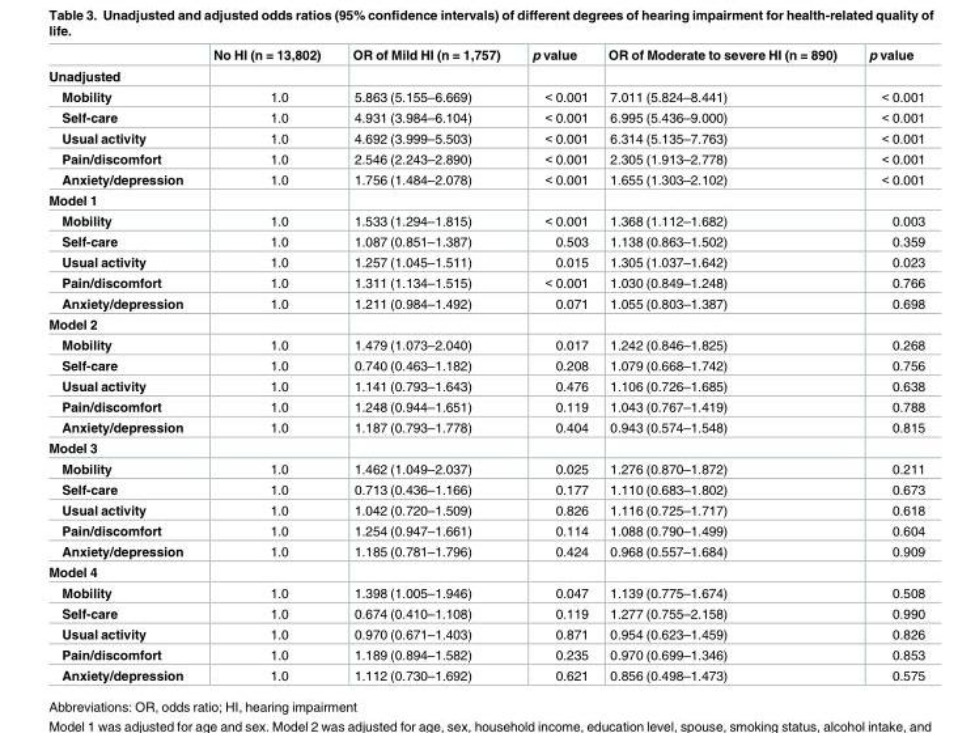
<table><thead><tr><td></td><td>No HI (n = 13,802)</td><td>OR of Mild HI (n = 1,757)</td><td>p value</td><td>OR of Moderate to severe HI (n = 890)</td><td>p value</td></tr></thead><tbody><tr><td colspan="6">Unadjusted</td></tr><tr><td>Mobility</td><td>1.0</td><td>5.863 (5.155–6.669)</td><td>&lt; 0.001</td><td>7.011 (5.824–8.441)</td><td>&lt; 0.001</td></tr><tr><td>Self-care</td><td>1.0</td><td>4.931 (3.984–6.104)</td><td>&lt; 0.001</td><td>6.995 (5.436–9.000)</td><td>&lt; 0.001</td></tr><tr><td>Usual activity</td><td>1.0</td><td>4.692 (3.999–5.503)</td><td>&lt; 0.001</td><td>6.314 (5.135–7.763)</td><td>&lt; 0.001</td></tr><tr><td>Pain/discomfort</td><td>1.0</td><td>2.546 (2.243–2.890)</td><td>&lt; 0.001</td><td>2.305 (1.913–2.778)</td><td>&lt; 0.001</td></tr><tr><td>Anxiety/depression</td><td>1.0</td><td>1.756 (1.484–2.078)</td><td>&lt; 0.001</td><td>1.655 (1.303–2.102)</td><td>&lt; 0.001</td></tr><tr><td colspan="6">Model 1</td></tr><tr><td>Mobility</td><td>1.0</td><td>1.533 (1.294–1.815)</td><td>&lt; 0.001</td><td>1.368 (1.112–1.682)</td><td>0.003</td></tr><tr><td>Self-care</td><td>1.0</td><td>1.087 (0.851–1.387)</td><td>0.503</td><td>1.138 (0.863–1.502)</td><td>0.359</td></tr><tr><td>Usual activity</td><td>1.0</td><td>1.257 (1.045–1.511)</td><td>0.015</td><td>1.305 (1.037–1.642)</td><td>0.023</td></tr><tr><td>Pain/discomfort</td><td>1.0</td><td>1.311 (1.134–1.515)</td><td>&lt; 0.001</td><td>1.030 (0.849–1.248)</td><td>0.766</td></tr><tr><td>Anxiety/depression</td><td>1.0</td><td>1.211 (0.984–1.492)</td><td>0.071</td><td>1.055 (0.803–1.387)</td><td>0.698</td></tr><tr><td colspan="6">Model 2</td></tr><tr><td>Mobility</td><td>1.0</td><td>1.479 (1.073–2.040)</td><td>0.017</td><td>1.242 (0.846–1.825)</td><td>0.268</td></tr><tr><td>Self-care</td><td>1.0</td><td>0.740 (0.463–1.182)</td><td>0.208</td><td>1.079 (0.668–1.742)</td><td>0.756</td></tr><tr><td>Usual activity</td><td>1.0</td><td>1.141 (0.793–1.643)</td><td>0.476</td><td>1.106 (0.726–1.685)</td><td>0.638</td></tr><tr><td>Pain/discomfort</td><td>1.0</td><td>1.248 (0.944–1.651)</td><td>0.119</td><td>1.043 (0.767–1.419)</td><td>0.788</td></tr><tr><td>Anxiety/depression</td><td>1.0</td><td>1.187 (0.793–1.778)</td><td>0.404</td><td>0.943 (0.574–1.548)</td><td>0.815</td></tr><tr><td colspan="6">Model 3</td></tr><tr><td>Mobility</td><td>1.0</td><td>1.462 (1.049–2.037)</td><td>0.025</td><td>1.276 (0.870–1.872)</td><td>0.211</td></tr><tr><td>Self-care</td><td>1.0</td><td>0.713 (0.436–1.166)</td><td>0.177</td><td>1.110 (0.683–1.802)</td><td>0.673</td></tr><tr><td>Usual activity</td><td>1.0</td><td>1.042 (0.720–1.509)</td><td>0.826</td><td>1.116 (0.725–1.717)</td><td>0.618</td></tr><tr><td>Pain/discomfort</td><td>1.0</td><td>1.254 (0.947–1.661)</td><td>0.114</td><td>1.088 (0.790–1.499)</td><td>0.604</td></tr><tr><td>Anxiety/depression</td><td>1.0</td><td>1.185 (0.781–1.796)</td><td>0.424</td><td>0.968 (0.557–1.684)</td><td>0.909</td></tr><tr><td colspan="6">Model 4</td></tr><tr><td>Mobility</td><td>1.0</td><td>1.398 (1.005–1.946)</td><td>0.047</td><td>1.139 (0.775–1.674)</td><td>0.508</td></tr><tr><td>Self-care</td><td>1.0</td><td>0.674 (0.410–1.108)</td><td>0.119</td><td>1.277 (0.755–2.158)</td><td>0.990</td></tr><tr><td>Usual activity</td><td>1.0</td><td>0.970 (0.671–1.403)</td><td>0.871</td><td>0.954 (0.623–1.459)</td><td>0.826</td></tr><tr><td>Pain/discomfort</td><td>1.0</td><td>1.189 (0.894–1.582)</td><td>0.235</td><td>0.970 (0.699–1.346)</td><td>0.853</td></tr><tr><td>Anxiety/depression</td><td>1.0</td><td>1.112 (0.730–1.692)</td><td>0.621</td><td>0.856 (0.498–1.473)</td><td>0.575</td></tr></tbody></table>